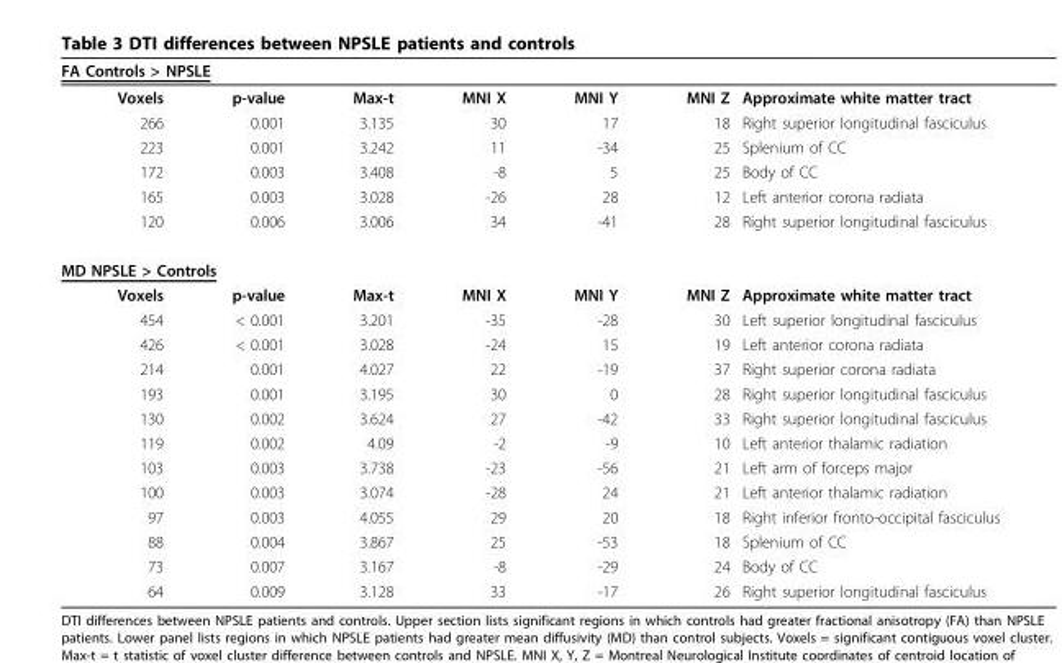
<table><thead><tr><td colspan="3">FA Controls &gt; NPSLE</td><td rowspan="2">MNI X</td><td rowspan="2">MNI Y</td><td rowspan="2">MNI Z</td><td rowspan="2">Approximate white matter tract</td></tr><tr><td>Voxels</td><td>p-value</td><td>Max-t</td></tr></thead><tbody><tr><td>266</td><td>0.001</td><td>3.135</td><td>30</td><td>17</td><td>18</td><td>Right superior longitudinal fasciculus</td></tr><tr><td>223</td><td>0.001</td><td>3.242</td><td>11</td><td>-34</td><td>25</td><td>Splenium of CC</td></tr><tr><td>172</td><td>0.003</td><td>3.408</td><td>-8</td><td>5</td><td>25</td><td>Body of CC</td></tr><tr><td>165</td><td>0.003</td><td>3.028</td><td>-26</td><td>28</td><td>12</td><td>Left anterior corona radiata</td></tr><tr><td>120</td><td>0.006</td><td>3.006</td><td>34</td><td>-41</td><td>28</td><td>Right superior longitudinal fasciculus</td></tr><tr><td colspan="7">MD NPSLE &gt; Controls</td></tr><tr><td>Voxels</td><td>p-value</td><td>Max-t</td><td>MNI X</td><td>MNI Y</td><td>MNI Z</td><td>Approximate white matter tract</td></tr><tr><td>454</td><td>&lt; 0.001</td><td>3.201</td><td>-35</td><td>-28</td><td>30</td><td>Left superior longitudinal fasciculus</td></tr><tr><td>426</td><td>&lt; 0.001</td><td>3.028</td><td>-24</td><td>15</td><td>19</td><td>Left anterior corona radiata</td></tr><tr><td>214</td><td>0.001</td><td>4.027</td><td>22</td><td>-19</td><td>37</td><td>Right superior corona radiata</td></tr><tr><td>193</td><td>0.001</td><td>3.195</td><td>30</td><td>0</td><td>28</td><td>Right superior longitudinal fasciculus</td></tr><tr><td>130</td><td>0.002</td><td>3.624</td><td>27</td><td>-42</td><td>33</td><td>Right superior longitudinal fasciculus</td></tr><tr><td>119</td><td>0.002</td><td>4.09</td><td>-2</td><td>-9</td><td>10</td><td>Left anterior thalamic radiation</td></tr><tr><td>103</td><td>0.003</td><td>3.738</td><td>-23</td><td>-56</td><td>21</td><td>Left arm of forceps major</td></tr><tr><td>100</td><td>0.003</td><td>3.074</td><td>-28</td><td>24</td><td>21</td><td>Left anterior thalamic radiation</td></tr><tr><td>97</td><td>0.003</td><td>4.055</td><td>29</td><td>20</td><td>18</td><td>Right inferior fronto-occipital fasciculus</td></tr><tr><td>88</td><td>0.004</td><td>3.867</td><td>25</td><td>-53</td><td>18</td><td>Splenium of CC</td></tr><tr><td>73</td><td>0.007</td><td>3.167</td><td>-8</td><td>-29</td><td>24</td><td>Body of CC</td></tr><tr><td>64</td><td>0.009</td><td>3.128</td><td>33</td><td>-17</td><td>26</td><td>Right superior longitudinal fasciculus</td></tr></tbody></table>